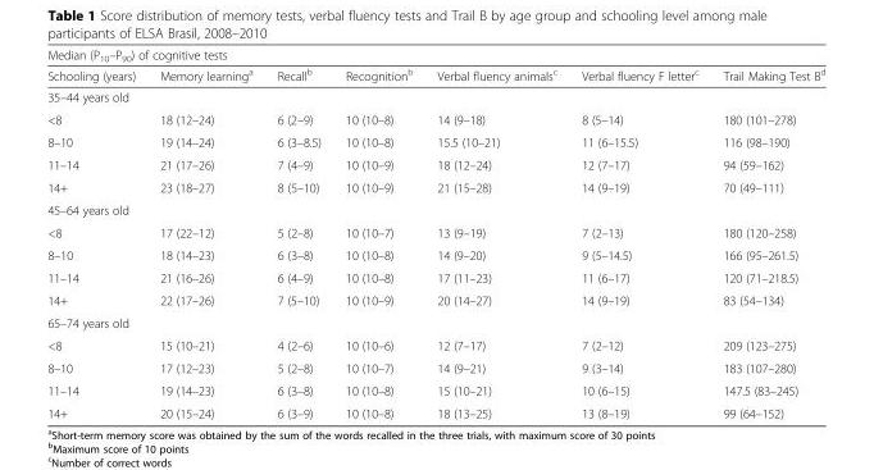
<table><thead><tr><td colspan="7">Median (P<sub>10</sub>–P<sub>90</sub>) of cognitive tests</td></tr><tr><td>Schooling (years)</td><td>Memory learning<sup>a</sup></td><td>Recall<sup>b</sup></td><td>Recognition<sup>b</sup></td><td>Verbal fluency animals<sup>c</sup></td><td>Verbal fluency F letter<sup>c</sup></td><td>Trail Making Test B<sup>d</sup></td></tr></thead><tbody><tr><td colspan="7">35–44 years old</td></tr><tr><td>&lt;8</td><td>18 (12–24)</td><td>6 (2–9)</td><td>10 (10–8)</td><td>14 (9–18)</td><td>8 (5–14)</td><td>180 (101–278)</td></tr><tr><td>8–10</td><td>19 (14–24)</td><td>6 (3–8.5)</td><td>10 (10–8)</td><td>15.5 (10–21)</td><td>11 (6–15.5)</td><td>116 (98–190)</td></tr><tr><td>11–14</td><td>21 (17–26)</td><td>7 (4–9)</td><td>10 (10–9)</td><td>18 (12–24)</td><td>12 (7–17)</td><td>94 (59–162)</td></tr><tr><td>14+</td><td>23 (18–27)</td><td>8 (5–10)</td><td>10 (10–9)</td><td>21 (15–28)</td><td>14 (9–19)</td><td>70 (49–111)</td></tr><tr><td colspan="7">45–64 years old</td></tr><tr><td>&lt;8</td><td>17 (22–12)</td><td>5 (2–8)</td><td>10 (10–7)</td><td>13 (9–19)</td><td>7 (2–13)</td><td>180 (120–258)</td></tr><tr><td>8–10</td><td>18 (14–23)</td><td>6 (3–8)</td><td>10 (10–8)</td><td>14 (9–20)</td><td>9 (5–14.5)</td><td>166 (95–261.5)</td></tr><tr><td>11–14</td><td>21 (16–26)</td><td>6 (4–9)</td><td>10 (10–8)</td><td>17 (11–23)</td><td>11 (6–17)</td><td>120 (71–218.5)</td></tr><tr><td>14+</td><td>22 (17–26)</td><td>7 (5–10)</td><td>10 (10–9)</td><td>20 (14–27)</td><td>14 (9–19)</td><td>83 (54–134)</td></tr><tr><td colspan="7">65–74 years old</td></tr><tr><td>&lt;8</td><td>15 (10–21)</td><td>4 (2–6)</td><td>10 (10–6)</td><td>12 (7–17)</td><td>7 (2–12)</td><td>209 (123–275)</td></tr><tr><td>8–10</td><td>17 (12–23)</td><td>5 (2–8)</td><td>10 (10–7)</td><td>14 (9–21)</td><td>9 (3–14)</td><td>183 (107–280)</td></tr><tr><td>11–14</td><td>19 (14–23)</td><td>6 (3–8)</td><td>10 (10–8)</td><td>15 (10–21)</td><td>10 (6–15)</td><td>147.5 (83–245)</td></tr><tr><td>14+</td><td>20 (15–24)</td><td>6 (3–9)</td><td>10 (10–8)</td><td>18 (13–25)</td><td>13 (8–19)</td><td>99 (64–152)</td></tr></tbody></table>